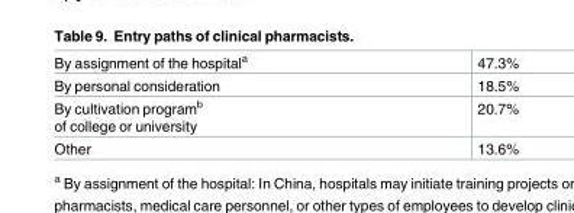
<table><tbody><tr><td>By assignment of the hospital<sup>a</sup></td><td>47.3%</td></tr><tr><td>By personal consideration</td><td>18.5%</td></tr><tr><td>By cultivation program<sup>b</sup> of college or university</td><td>20.7%</td></tr><tr><td>Other</td><td>13.6%</td></tr></tbody></table>